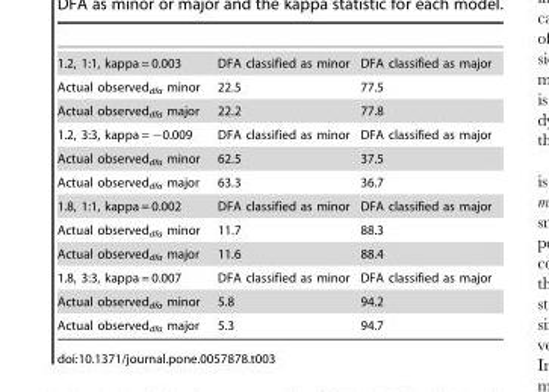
<table><tbody><tr><td>1.2, 1:1, kappa = 0.003</td><td>DFA classified as minor</td><td>DFA classified as major</td></tr><tr><td>Actual observed<sub>dfa</sub> minor</td><td>22.5</td><td>77.5</td></tr><tr><td>Actual observed<sub>dfa</sub> major</td><td>22.2</td><td>77.8</td></tr><tr><td>1.2, 3:3, kappa = −0.009</td><td>DFA classified as minor</td><td>DFA classified as major</td></tr><tr><td>Actual observed<sub>dfa</sub> minor</td><td>62.5</td><td>37.5</td></tr><tr><td>Actual observed<sub>dfa</sub> major</td><td>63.3</td><td>36.7</td></tr><tr><td>1.8, 1:1, kappa = 0.002</td><td>DFA classified as minor</td><td>DFA classified as major</td></tr><tr><td>Actual observed<sub>dfa</sub> minor</td><td>11.7</td><td>88.3</td></tr><tr><td>Actual observed<sub>dfa</sub> major</td><td>11.6</td><td>88.4</td></tr><tr><td>1.8, 3:3, kappa = 0.007</td><td>DFA classified as minor</td><td>DFA classified as major</td></tr><tr><td>Actual observed<sub>dfa</sub> minor</td><td>5.8</td><td>94.2</td></tr><tr><td>Actual observed<sub>dfa</sub> major</td><td>5.3</td><td>94.7</td></tr></tbody></table>